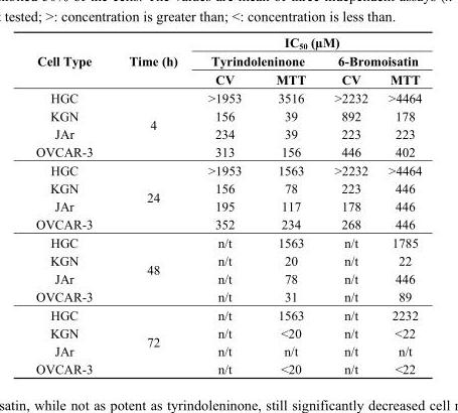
<table><thead><tr><td rowspan="3">Cell Type</td><td rowspan="3">Time (h)</td><td colspan="4">IC<sub>50</sub> (µM)</td></tr><tr><td colspan="2">Tyrindoleninone</td><td colspan="2">6-Bromoisatin</td></tr><tr><td>CV</td><td>MTT</td><td>CV</td><td>MTT</td></tr></thead><tbody><tr><td>HGC</td><td rowspan="4">4</td><td>&gt;1953</td><td>3516</td><td>&gt;2232</td><td>&gt;4464</td></tr><tr><td>KGN</td><td>156</td><td>39</td><td>892</td><td>178</td></tr><tr><td>JAr</td><td>234</td><td>39</td><td>223</td><td>223</td></tr><tr><td>OVCAR-3</td><td>313</td><td>156</td><td>446</td><td>402</td></tr><tr><td>HGC</td><td rowspan="4">24</td><td>&gt;1953</td><td>1563</td><td>&gt;2232</td><td>&gt;4464</td></tr><tr><td>KGN</td><td>156</td><td>78</td><td>223</td><td>446</td></tr><tr><td>JAr</td><td>195</td><td>117</td><td>178</td><td>446</td></tr><tr><td>OVCAR-3</td><td>352</td><td>234</td><td>268</td><td>446</td></tr><tr><td>HGC</td><td rowspan="4">48</td><td>n/t</td><td>1563</td><td>n/t</td><td>1785</td></tr><tr><td>KGN</td><td>n/t</td><td>20</td><td>n/t</td><td>22</td></tr><tr><td>JAr</td><td>n/t</td><td>78</td><td>n/t</td><td>446</td></tr><tr><td>OVCAR-3</td><td>n/t</td><td>31</td><td>n/t</td><td>89</td></tr><tr><td>HGC</td><td rowspan="4">72</td><td>n/t</td><td>1563</td><td>n/t</td><td>2232</td></tr><tr><td>KGN</td><td>n/t</td><td>&lt;20</td><td>n/t</td><td>&lt;22</td></tr><tr><td>JAr</td><td>n/t</td><td>n/t</td><td>n/t</td><td>n/t</td></tr><tr><td>OVCAR-3</td><td>n/t</td><td>&lt;20</td><td>n/t</td><td>&lt;22</td></tr></tbody></table>